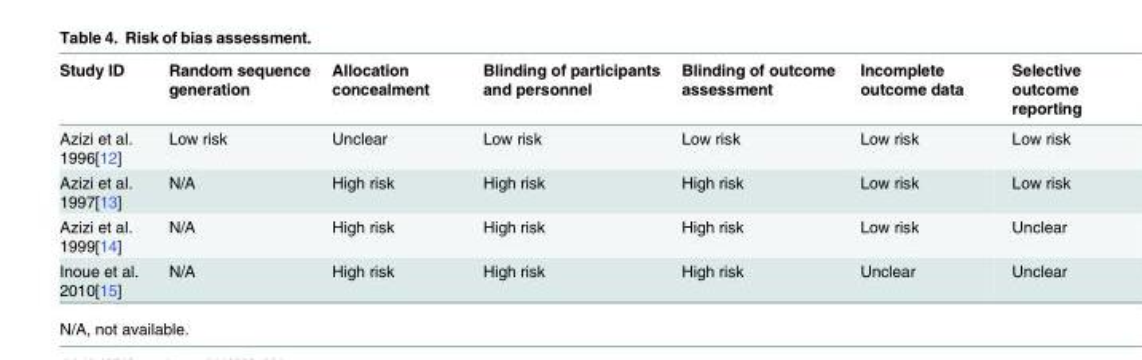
<table><thead><tr><td>Study ID</td><td>Random sequence generation</td><td>Allocation concealment</td><td>Blinding of participants and personnel</td><td>Blinding of outcome assessment</td><td>Incomplete outcome data</td><td>Selective outcome reporting</td></tr></thead><tbody><tr><td>Azizi et al. 1996[12]</td><td>Low risk</td><td>Unclear</td><td>Low risk</td><td>Low risk</td><td>Low risk</td><td>Low risk</td></tr><tr><td>Azizi et al. 1997[13]</td><td>N/A</td><td>High risk</td><td>High risk</td><td>High risk</td><td>Low risk</td><td>Low risk</td></tr><tr><td>Azizi et al. 1999[14]</td><td>N/A</td><td>High risk</td><td>High risk</td><td>High risk</td><td>Low risk</td><td>Unclear</td></tr><tr><td>Inoue et al. 2010[15]</td><td>N/A</td><td>High risk</td><td>High risk</td><td>High risk</td><td>Unclear</td><td>Unclear</td></tr></tbody></table>